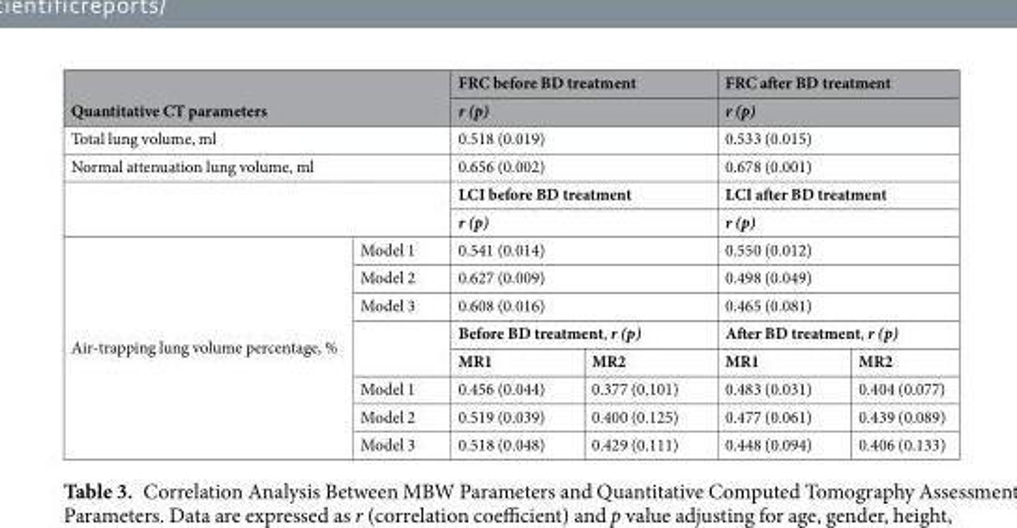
<table><thead><tr><td rowspan="2" colspan="2">Quantitative CT parameters</td><td rowspan="2" colspan="2">FRC before BD treatment r (p)</td><td rowspan="2" colspan="2">FRC after BD treatment r (p)</td></tr><tr></tr></thead><tbody><tr><td colspan="2">Total lung volume, ml</td><td colspan="2">0.518 (0.019)</td><td colspan="2">0.533 (0.015)</td></tr><tr><td rowspan="3" colspan="2">Normal attenuation lung volume, ml</td><td colspan="2">0.656 (0.002)</td><td colspan="2">0.678 (0.001)</td></tr><tr><td colspan="2">LCI before BD treatment</td><td colspan="2">LCI after BD treatment</td></tr><tr><td colspan="2">r (p)</td><td colspan="2">r (p)</td></tr><tr><td rowspan="8">Air-trapping lung volume percentage, %</td><td>Model 1</td><td colspan="2">0.541 (0.014)</td><td colspan="2">0.550 (0.012)</td></tr><tr><td>Model 2</td><td colspan="2">0.627 (0.009)</td><td colspan="2">0.498 (0.049)</td></tr><tr><td>Model 3</td><td colspan="2">0.608 (0.016)</td><td colspan="2">0.465 (0.081)</td></tr><tr><td rowspan="2"></td><td colspan="2">Before BD treatment, r (p)</td><td colspan="2">After BD treatment, r (p)</td></tr><tr><td>MR1</td><td>MR2</td><td>MR1</td><td>MR2</td></tr><tr><td>Model 1</td><td>0.456 (0.044)</td><td>0.377 (0.101)</td><td>0.483 (0.031)</td><td>0.404 (0.077)</td></tr><tr><td>Model 2</td><td>0.519 (0.039)</td><td>0.400 (0.125)</td><td>0.477 (0.061)</td><td>0.439 (0.089)</td></tr><tr><td>Model 3</td><td>0.518 (0.048)</td><td>0.429 (0.111)</td><td>0.448 (0.094)</td><td>0.406 (0.133)</td></tr></tbody></table>